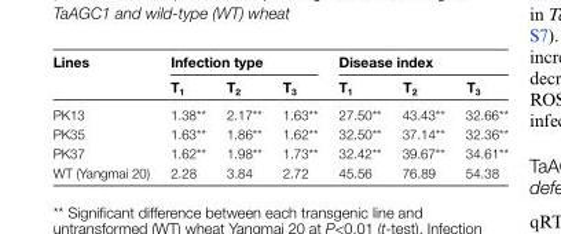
<table><thead><tr><td rowspan="2">Lines</td><td colspan="3">Infection type</td><td colspan="3">Disease index</td></tr><tr><td>T<sub>1</sub></td><td>T<sub>2</sub></td><td>T<sub>3</sub></td><td>T<sub>1</sub></td><td>T<sub>2</sub></td><td>T<sub>3</sub></td></tr></thead><tbody><tr><td>PK13</td><td>1.38**</td><td>2.17**</td><td>1.63**</td><td>27.50**</td><td>43.43**</td><td>32.66**</td></tr><tr><td>PK35</td><td>1.63**</td><td>1.86**</td><td>1.62**</td><td>32.50**</td><td>37.14**</td><td>32.36**</td></tr><tr><td>PK37</td><td>1.62**</td><td>1.98**</td><td>1.73**</td><td>32.42**</td><td>39.67**</td><td>34.61**</td></tr><tr><td>WT (Yangmai 20)</td><td>2.28</td><td>3.84</td><td>2.72</td><td>45.56</td><td>76.89</td><td>54.38</td></tr></tbody></table>